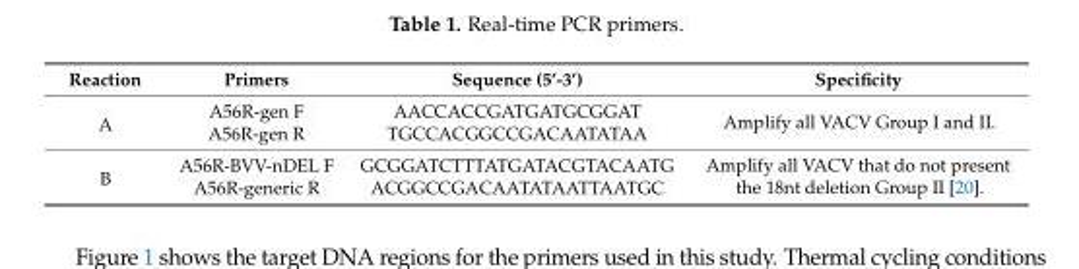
<table><thead><tr><td>Reaction</td><td>Primers</td><td>Sequence (5’-3’)</td><td>Specificity</td></tr></thead><tbody><tr><td rowspan="2">A</td><td>A56R-gen F</td><td>AACCACCGATGATGCGGAT</td><td rowspan="2">Amplify all VACV Group I and II.</td></tr><tr><td>A56R-gen R</td><td>TGCCACGGCCGACAATATAA</td></tr><tr><td rowspan="2">B</td><td>A56R-BVV-nDEL F</td><td>GCGGATCTTTATGATACGTACAATG</td><td rowspan="2">Amplify all VACV that do not present the 18nt deletion Group II [20].</td></tr><tr><td>A56R-generic R</td><td>ACGGCCGACAATATAATTAATGC</td></tr></tbody></table>